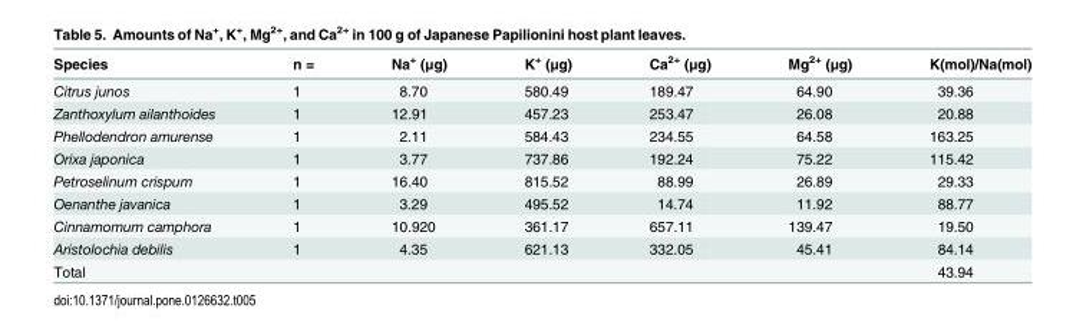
<table><thead><tr><td>Species</td><td>n =</td><td>Na<sup>+</sup> (μg)</td><td>K<sup>+</sup> (μg)</td><td>Ca<sup>2+</sup> (μg)</td><td>Mg<sup>2+</sup> (μg)</td><td>K(mol)/Na(mol)</td></tr></thead><tbody><tr><td>Citrus junos</td><td>1</td><td>8.70</td><td>580.49</td><td>189.47</td><td>64.90</td><td>39.36</td></tr><tr><td>Zanthoxylum ailanthoides</td><td>1</td><td>12.91</td><td>457.23</td><td>253.47</td><td>26.08</td><td>20.88</td></tr><tr><td>Phellodendron amurense</td><td>1</td><td>2.11</td><td>584.43</td><td>234.55</td><td>64.58</td><td>163.25</td></tr><tr><td>Orixa japonica</td><td>1</td><td>3.77</td><td>737.86</td><td>192.24</td><td>75.22</td><td>115.42</td></tr><tr><td>Petroselinum crispum</td><td>1</td><td>16.40</td><td>815.52</td><td>88.99</td><td>26.89</td><td>29.33</td></tr><tr><td>Oenanthe javanica</td><td>1</td><td>3.29</td><td>495.52</td><td>14.74</td><td>11.92</td><td>88.77</td></tr><tr><td>Cinnamomum camphora</td><td>1</td><td>10.920</td><td>361.17</td><td>657.11</td><td>139.47</td><td>19.50</td></tr><tr><td>Aristolochia debilis</td><td>1</td><td>4.35</td><td>621.13</td><td>332.05</td><td>45.41</td><td>84.14</td></tr><tr><td>Total</td><td></td><td></td><td></td><td></td><td></td><td>43.94</td></tr></tbody></table>